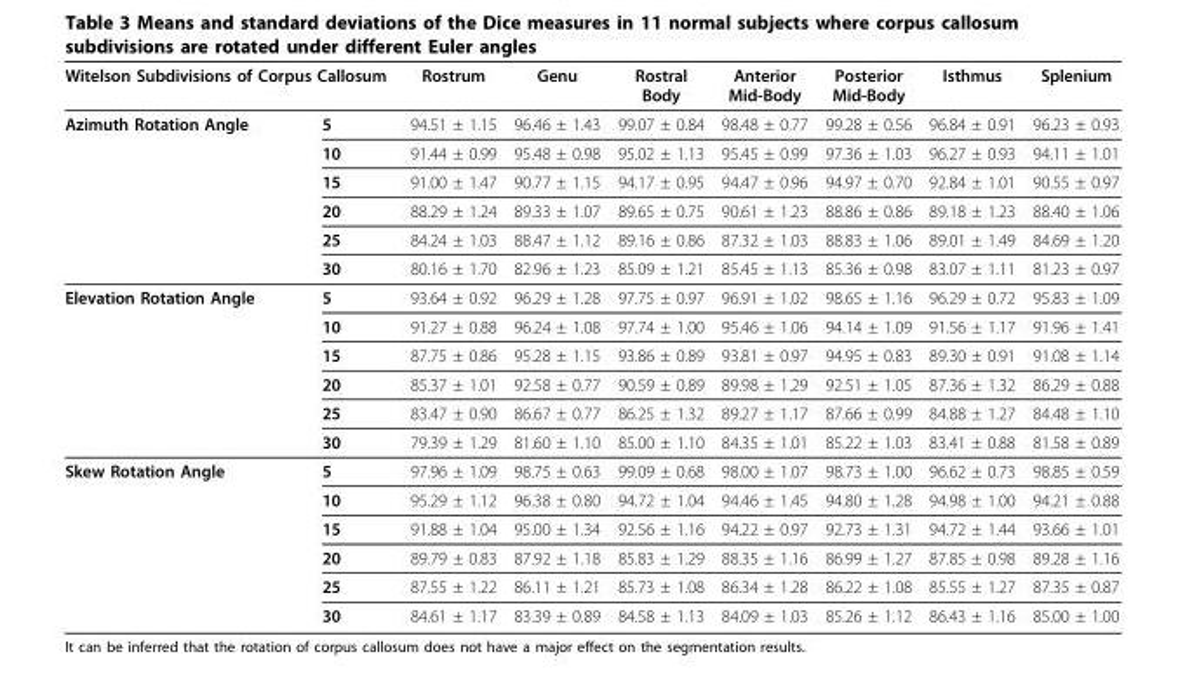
<table><thead><tr><td colspan="2">Witelson Subdivisions of Corpus Callosum</td><td rowspan="2">Rostrum 94.51 ± 1.15</td><td rowspan="2">Genu 96.46 ± 1.43</td><td rowspan="2">Rostral Body 99.07 ± 0.84</td><td rowspan="2">Anterior Mid-Body 98.48 ± 0.77</td><td rowspan="2">Posterior Mid-Body 99.28 ± 0.56</td><td rowspan="2">Isthmus 96.84 ± 0.91</td><td rowspan="2">Splenium 96.23 ± 0.93</td></tr><tr><td>Azimuth Rotation Angle</td><td>5</td></tr></thead><tbody><tr><td></td><td>10</td><td>91.44 ± 0.99</td><td>95.48 ± 0.98</td><td>95.02 ± 1.13</td><td>95.45 ± 0.99</td><td>97.36 ± 1.03</td><td>96.27 ± 0.93</td><td>94.11 ± 1.01</td></tr><tr><td></td><td>15</td><td>91.00 ± 1.47</td><td>90.77 ± 1.15</td><td>94.17 ± 0.95</td><td>94.47 ± 0.96</td><td>94.97 ± 0.70</td><td>92.84 ± 1.01</td><td>90.55 ± 0.97</td></tr><tr><td></td><td>20</td><td>88.29 ± 1.24</td><td>89.33 ± 1.07</td><td>89.65 ± 0.75</td><td>90.61 ± 1.23</td><td>88.86 ± 0.86</td><td>89.18 ± 1.23</td><td>88.40 ± 1.06</td></tr><tr><td></td><td>25</td><td>84.24 ± 1.03</td><td>88.47 ± 1.12</td><td>89.16 ± 0.86</td><td>87.32 ± 1.03</td><td>88.83 ± 1.06</td><td>89.01 ± 1.49</td><td>84.69 ± 1.20</td></tr><tr><td></td><td>30</td><td>80.16 ± 1.70</td><td>82.96 ± 1.23</td><td>85.09 ± 1.21</td><td>85.45 ± 1.13</td><td>85.36 ± 0.98</td><td>83.07 ± 1.11</td><td>81.23 ± 0.97</td></tr><tr><td rowspan="6">Elevation Rotation Angle</td><td>5</td><td>93.64 ± 0.92</td><td>96.29 ± 1.28</td><td>97.75 ± 0.97</td><td>96.91 ± 1.02</td><td>98.65 ± 1.16</td><td>96.29 ± 0.72</td><td>95.83 ± 1.09</td></tr><tr><td>10</td><td>91.27 ± 0.88</td><td>96.24 ± 1.08</td><td>97.74 ± 1.00</td><td>95.46 ± 1.06</td><td>94.14 ± 1.09</td><td>91.56 ± 1.17</td><td>91.96 ± 1.41</td></tr><tr><td>15</td><td>87.75 ± 0.86</td><td>95.28 ± 1.15</td><td>93.86 ± 0.89</td><td>93.81 ± 0.97</td><td>94.95 ± 0.83</td><td>89.30 ± 0.91</td><td>91.08 ± 1.14</td></tr><tr><td>20</td><td>85.37 ± 1.01</td><td>92.58 ± 0.77</td><td>90.59 ± 0.89</td><td>89.98 ± 1.29</td><td>92.51 ± 1.05</td><td>87.36 ± 1.32</td><td>86.29 ± 0.88</td></tr><tr><td>25</td><td>83.47 ± 0.90</td><td>86.67 ± 0.77</td><td>86.25 ± 1.32</td><td>89.27 ± 1.17</td><td>87.66 ± 0.99</td><td>84.88 ± 1.27</td><td>84.48 ± 1.10</td></tr><tr><td>30</td><td>79.39 ± 1.29</td><td>81.60 ± 1.10</td><td>85.00 ± 1.10</td><td>84.35 ± 1.01</td><td>85.22 ± 1.03</td><td>83.41 ± 0.88</td><td>81.58 ± 0.89</td></tr><tr><td rowspan="6">Skew Rotation Angle</td><td>5</td><td>97.96 ± 1.09</td><td>98.75 ± 0.63</td><td>99.09 ± 0.68</td><td>98.00 ± 1.07</td><td>98.73 ± 1.00</td><td>96.62 ± 0.73</td><td>98.85 ± 0.59</td></tr><tr><td>10</td><td>95.29 ± 1.12</td><td>96.38 ± 0.80</td><td>94.72 ± 1.04</td><td>94.46 ± 1.45</td><td>94.80 ± 1.28</td><td>94.98 ± 1.00</td><td>94.21 ± 0.88</td></tr><tr><td>15</td><td>91.88 ± 1.04</td><td>95.00 ± 1.34</td><td>92.56 ± 1.16</td><td>94.22 ± 0.97</td><td>92.73 ± 1.31</td><td>94.72 ± 1.44</td><td>93.66 ± 1.01</td></tr><tr><td>20</td><td>89.79 ± 0.83</td><td>87.92 ± 1.18</td><td>85.83 ± 1.29</td><td>88.35 ± 1.16</td><td>86.99 ± 1.27</td><td>87.85 ± 0.98</td><td>89.28 ± 1.16</td></tr><tr><td>25</td><td>87.55 ± 1.22</td><td>86.11 ± 1.21</td><td>85.73 ± 1.08</td><td>86.34 ± 1.28</td><td>86.22 ± 1.08</td><td>85.55 ± 1.27</td><td>87.35 ± 0.87</td></tr><tr><td>30</td><td>84.61 ± 1.17</td><td>83.39 ± 0.89</td><td>84.58 ± 1.13</td><td>84.09 ± 1.03</td><td>85.26 ± 1.12</td><td>86.43 ± 1.16</td><td>85.00 ± 1.00</td></tr></tbody></table>